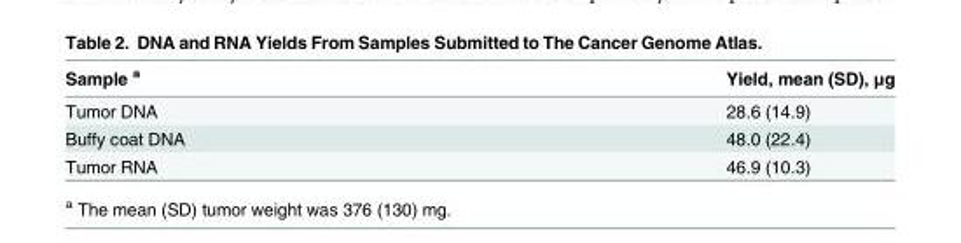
<table><thead><tr><td>Sample <sup>a</sup></td><td>Yield, mean (SD), μg</td></tr></thead><tbody><tr><td>Tumor DNA</td><td>28.6 (14.9)</td></tr><tr><td>Buffy coat DNA</td><td>48.0 (22.4)</td></tr><tr><td>Tumor RNA</td><td>46.9 (10.3)</td></tr></tbody></table>